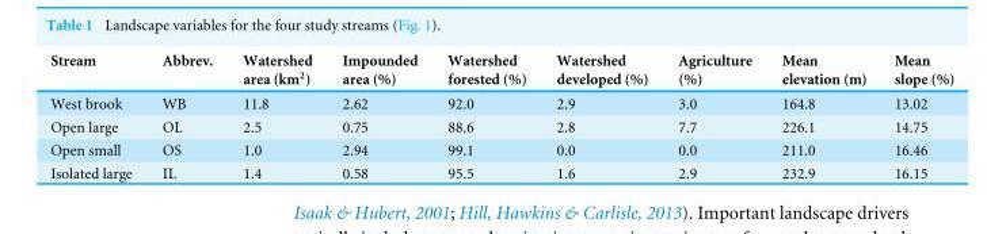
<table><thead><tr><td>Stream</td><td>Abbrev.</td><td>Watershed area (km<sup>2</sup>)</td><td>Impounded area (%)</td><td>Watershed forested (%)</td><td>Watershed developed (%)</td><td>Agriculture (%)</td><td>Mean elevation (m)</td><td>Mean slope (%)</td></tr></thead><tbody><tr><td>West brook</td><td>WB</td><td>11.8</td><td>2.62</td><td>92.0</td><td>2.9</td><td>3.0</td><td>164.8</td><td>13.02</td></tr><tr><td>Open large</td><td>OL</td><td>2.5</td><td>0.75</td><td>88.6</td><td>2.8</td><td>7.7</td><td>226.1</td><td>14.75</td></tr><tr><td>Open small</td><td>OS</td><td>1.0</td><td>2.94</td><td>99.1</td><td>0.0</td><td>0.0</td><td>211.0</td><td>16.46</td></tr><tr><td>Isolated large</td><td>IL</td><td>1.4</td><td>0.58</td><td>95.5</td><td>1.6</td><td>2.9</td><td>232.9</td><td>16.15</td></tr></tbody></table>